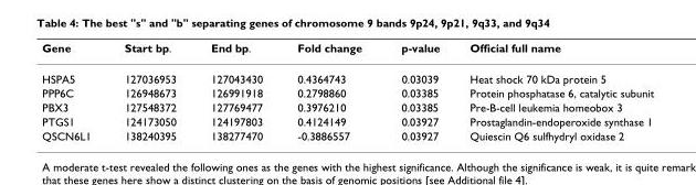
<table><thead><tr><td>Gene</td><td>Start bp.</td><td>End bp.</td><td>Fold change</td><td>p-value</td><td>Official full name</td></tr></thead><tbody><tr><td>HSPA5</td><td>127036953</td><td>127043430</td><td>0.4364743</td><td>0.03039</td><td>Heat shock 70 kDa protein 5</td></tr><tr><td>PPP6C</td><td>126948673</td><td>126991918</td><td>0.2798860</td><td>0.03385</td><td>Protein phosphatase 6, catalytic subunit</td></tr><tr><td>PBX3</td><td>127548372</td><td>127769477</td><td>0.3976210</td><td>0.03385</td><td>Pre-B-cell leukemia homeobox 3</td></tr><tr><td>PTGS1</td><td>124173050</td><td>124197803</td><td>0.4124149</td><td>0.03927</td><td>Prostaglandin-endoperoxide synthase 1</td></tr><tr><td>QSCN6L1</td><td>138240395</td><td>138277470</td><td>-0.3886557</td><td>0.03927</td><td>Quiescin Q6 sulfhydryl oxidase 2</td></tr></tbody></table>